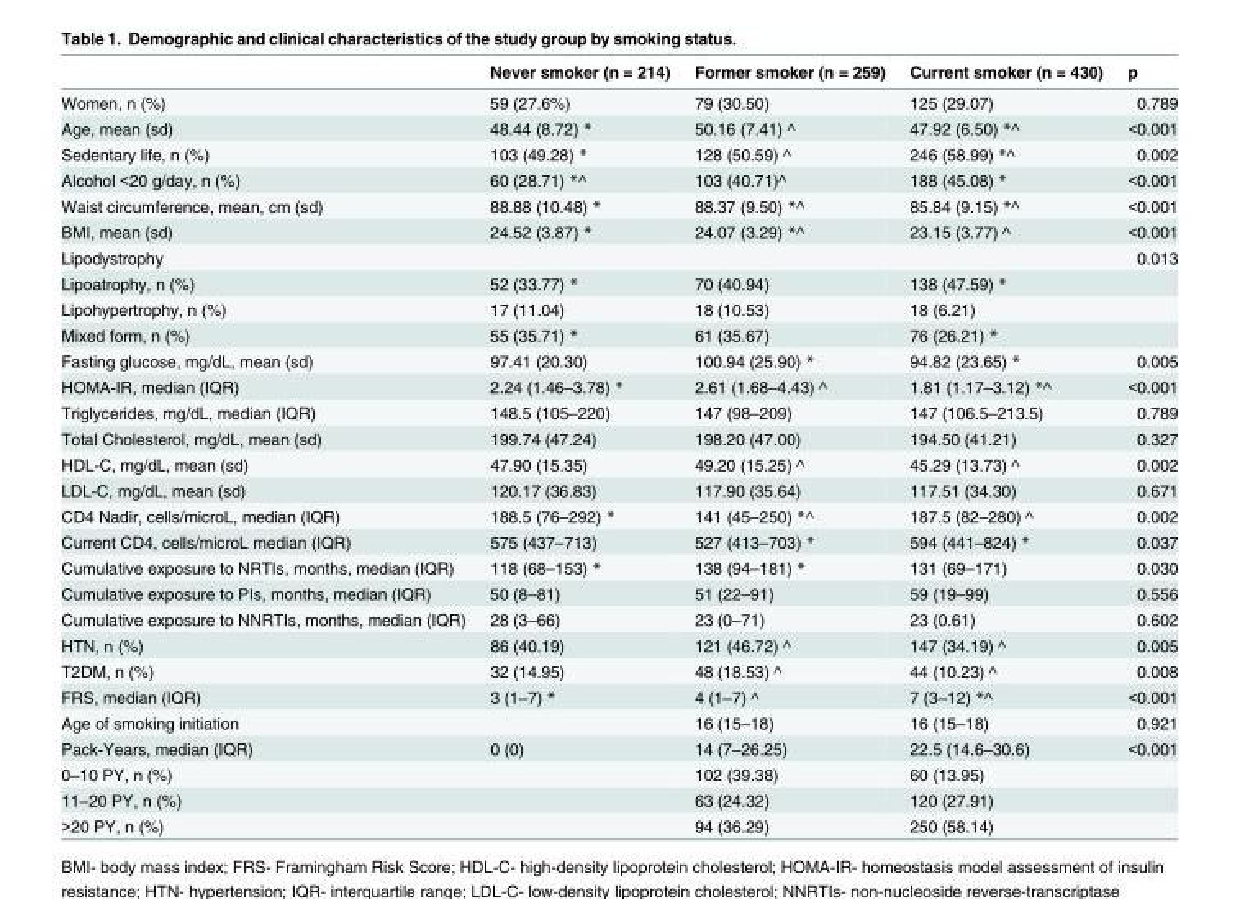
<table><thead><tr><td></td><td>Never smoker (n = 214)</td><td>Former smoker (n = 259)</td><td>Current smoker (n = 430)</td><td>p</td></tr></thead><tbody><tr><td>Women, n (%)</td><td>59 (27.6%)</td><td>79 (30.50)</td><td>125 (29.07)</td><td>0.789</td></tr><tr><td>Age, mean (sd)</td><td>48.44 (8.72) *</td><td>50.16 (7.41) ^</td><td>47.92 (6.50) *^</td><td>&lt;0.001</td></tr><tr><td>Sedentary life, n (%)</td><td>103 (49.28) *</td><td>128 (50.59) ^</td><td>246 (58.99) *^</td><td>0.002</td></tr><tr><td>Alcohol &lt;20 g/day, n (%)</td><td>60 (28.71) *^</td><td>103 (40.71)^</td><td>188 (45.08) *</td><td>&lt;0.001</td></tr><tr><td>Waist circumference, mean, cm (sd)</td><td>88.88 (10.48) *</td><td>88.37 (9.50) *^</td><td>85.84 (9.15) *^</td><td>&lt;0.001</td></tr><tr><td>BMI, mean (sd)</td><td>24.52 (3.87) *</td><td>24.07 (3.29) *^</td><td>23.15 (3.77) ^</td><td>&lt;0.001</td></tr><tr><td>Lipodystrophy</td><td></td><td></td><td></td><td>0.013</td></tr><tr><td>Lipoatrophy, n (%)</td><td>52 (33.77) *</td><td>70 (40.94)</td><td>138 (47.59) *</td><td></td></tr><tr><td>Lipohypertrophy, n (%)</td><td>17 (11.04)</td><td>18 (10.53)</td><td>18 (6.21)</td><td></td></tr><tr><td>Mixed form, n (%)</td><td>55 (35.71) *</td><td>61 (35.67)</td><td>76 (26.21) *</td><td></td></tr><tr><td>Fasting glucose, mg/dL, mean (sd)</td><td>97.41 (20.30)</td><td>100.94 (25.90) *</td><td>94.82 (23.65) *</td><td>0.005</td></tr><tr><td>HOMA-IR, median (IQR)</td><td>2.24 (1.46–3.78) *</td><td>2.61 (1.68–4.43) ^</td><td>1.81 (1.17–3.12) *^</td><td>&lt;0.001</td></tr><tr><td>Triglycerides, mg/dL, median (IQR)</td><td>148.5 (105–220)</td><td>147 (98–209)</td><td>147 (106.5–213.5)</td><td>0.789</td></tr><tr><td>Total Cholesterol, mg/dL, mean (sd)</td><td>199.74 (47.24)</td><td>198.20 (47.00)</td><td>194.50 (41.21)</td><td>0.327</td></tr><tr><td>HDL-C, mg/dL, mean (sd)</td><td>47.90 (15.35)</td><td>49.20 (15.25) ^</td><td>45.29 (13.73) ^</td><td>0.002</td></tr><tr><td>LDL-C, mg/dL, mean (sd)</td><td>120.17 (36.83)</td><td>117.90 (35.64)</td><td>117.51 (34.30)</td><td>0.671</td></tr><tr><td>CD4 Nadir, cells/microL, median (IQR)</td><td>188.5 (76–292) *</td><td>141 (45–250) *^</td><td>187.5 (82–280) ^</td><td>0.002</td></tr><tr><td>Current CD4, cells/microL median (IQR)</td><td>575 (437–713)</td><td>527 (413–703) *</td><td>594 (441–824) *</td><td>0.037</td></tr><tr><td>Cumulative exposure to NRTIs, months, median (IQR)</td><td>118 (68–153) *</td><td>138 (94–181) *</td><td>131 (69–171)</td><td>0.030</td></tr><tr><td>Cumulative exposure to PIs, months, median (IQR)</td><td>50 (8–81)</td><td>51 (22–91)</td><td>59 (19–99)</td><td>0.556</td></tr><tr><td>Cumulative exposure to NNRTIs, months, median (IQR)</td><td>28 (3–66)</td><td>23 (0–71)</td><td>23 (0.61)</td><td>0.602</td></tr><tr><td>HTN, n (%)</td><td>86 (40.19)</td><td>121 (46.72) ^</td><td>147 (34.19) ^</td><td>0.005</td></tr><tr><td>T2DM, n (%)</td><td>32 (14.95)</td><td>48 (18.53) ^</td><td>44 (10.23) ^</td><td>0.008</td></tr><tr><td>FRS, median (IQR)</td><td>3 (1–7) *</td><td>4 (1–7) ^</td><td>7 (3–12) *^</td><td>&lt;0.001</td></tr><tr><td>Age of smoking initiation</td><td></td><td>16 (15–18)</td><td>16 (15–18)</td><td>0.921</td></tr><tr><td>Pack-Years, median (IQR)</td><td>0 (0)</td><td>14 (7–26.25)</td><td>22.5 (14.6–30.6)</td><td>&lt;0.001</td></tr><tr><td>0–10 PY, n (%)</td><td></td><td>102 (39.38)</td><td>60 (13.95)</td><td></td></tr><tr><td>11–20 PY, n (%)</td><td></td><td>63 (24.32)</td><td>120 (27.91)</td><td></td></tr><tr><td>&gt;20 PY, n (%)</td><td></td><td>94 (36.29)</td><td>250 (58.14)</td><td></td></tr></tbody></table>